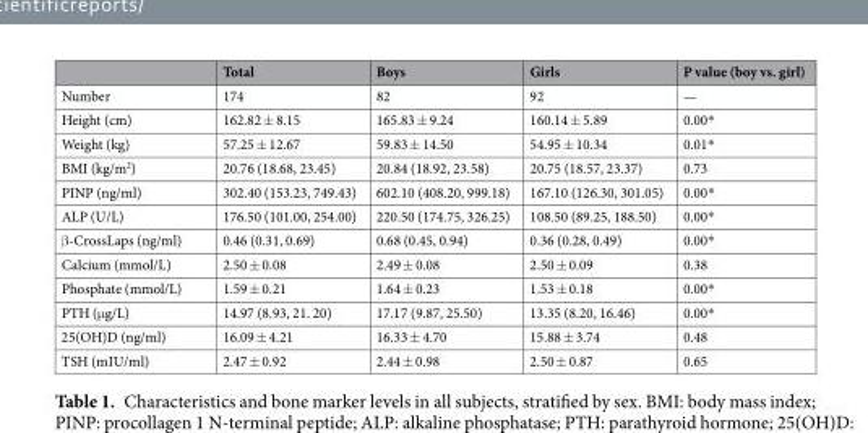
<table><thead><tr><td></td><td>Total</td><td>Boys</td><td>Girls</td><td>P value (boy vs. girl)</td></tr></thead><tbody><tr><td>Number</td><td>174</td><td>82</td><td>92</td><td>—</td></tr><tr><td>Height (cm)</td><td>162.82 ± 8.15</td><td>165.83 ± 9.24</td><td>160.14 ± 5.89</td><td>0.00*</td></tr><tr><td>Weight (kg)</td><td>57.25 ± 12.67</td><td>59.83 ± 14.50</td><td>54.95 ± 10.34</td><td>0.01*</td></tr><tr><td>BMI (kg/m<sup>2</sup>)</td><td>20.76 (18.68, 23.45)</td><td>20.84 (18.92, 23.58)</td><td>20.75 (18.57, 23.37)</td><td>0.73</td></tr><tr><td>PINP (ng/ml)</td><td>302.40 (153.23, 749.43)</td><td>602.10 (408.20, 999.18)</td><td>167.10 (126.30, 301.05)</td><td>0.00*</td></tr><tr><td>ALP (U/L)</td><td>176.50 (101.00, 254.00)</td><td>220.50 (174.75, 326.25)</td><td>108.50 (89.25, 188.50)</td><td>0.00*</td></tr><tr><td>β-CrossLaps (ng/ml)</td><td>0.46 (0.31, 0.69)</td><td>0.68 (0.45, 0.94)</td><td>0.36 (0.28, 0.49)</td><td>0.00*</td></tr><tr><td>Calcium (mmol/L)</td><td>2.50 ± 0.08</td><td>2.49 ± 0.08</td><td>2.50 ± 0.09</td><td>0.38</td></tr><tr><td>Phosphate (mmol/L)</td><td>1.59 ± 0.21</td><td>1.64 ± 0.23</td><td>1.53 ± 0.18</td><td>0.00*</td></tr><tr><td>PTH (μg/L)</td><td>14.97 (8.93, 21. 20)</td><td>17.17 (9.87, 25.50)</td><td>13.35 (8.20, 16.46)</td><td>0.00*</td></tr><tr><td>25(OH)D (ng/ml)</td><td>16.09 ± 4.21</td><td>16.33 ± 4.70</td><td>15.88 ± 3.74</td><td>0.48</td></tr><tr><td>TSH (mIU/ml)</td><td>2.47 ± 0.92</td><td>2.44 ± 0.98</td><td>2.50 ± 0.87</td><td>0.65</td></tr></tbody></table>